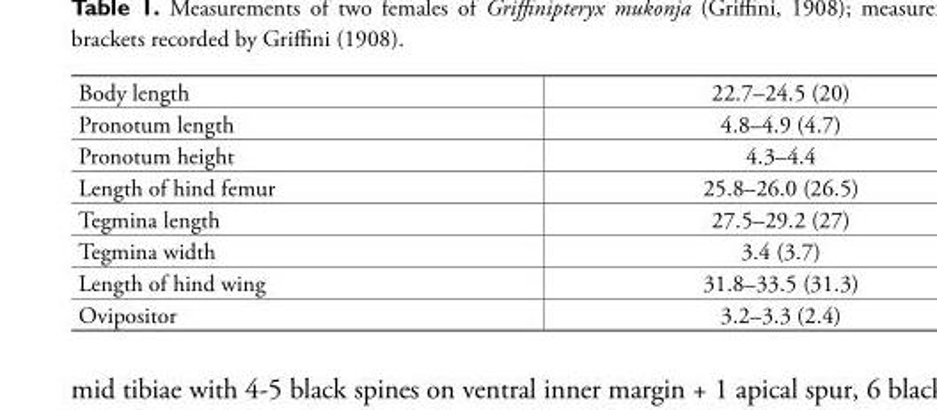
<table><tbody><tr><td>Body length</td><td>22.7–24.5 (20)</td></tr><tr><td>Pronotum length</td><td>4.8–4.9 (4.7)</td></tr><tr><td>Pronotum height</td><td>4.3–4.4</td></tr><tr><td>Length of hind femur</td><td>25.8–26.0 (26.5)</td></tr><tr><td>Tegmina length</td><td>27.5–29.2 (27)</td></tr><tr><td>Tegmina width</td><td>3.4 (3.7)</td></tr><tr><td>Length of hind wing</td><td>31.8–33.5 (31.3)</td></tr><tr><td>Ovipositor</td><td>3.2–3.3 (2.4)</td></tr></tbody></table>